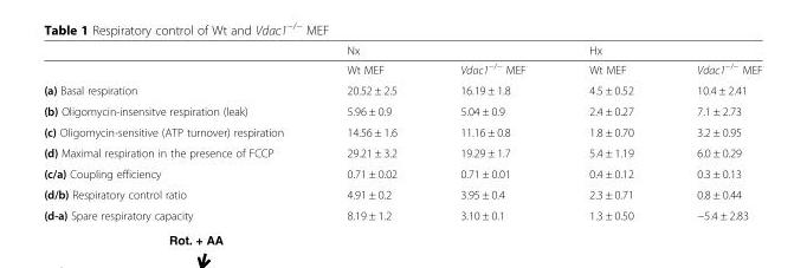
<table><thead><tr><td></td><td>Nx</td><td></td><td>Hx</td><td></td></tr></thead><tbody><tr><td></td><td>Wt MEF</td><td>Vdac1<sup>−/−</sup> MEF</td><td>Wt MEF</td><td>Vdac1<sup>−/−</sup> MEF</td></tr><tr><td>(a) Basal respiration</td><td>20.52 ± 2.5</td><td>16.19 ± 1.8</td><td>4.5 ± 0.52</td><td>10.4 ± 2.41</td></tr><tr><td>(b) Oligomycin-insensitve respiration (leak)</td><td>5.96 ± 0.9</td><td>5.04 ± 0.9</td><td>2.4 ± 0.27</td><td>7.1 ± 2.73</td></tr><tr><td>(c) Oligomycin-sensitive (ATP turnover) respiration</td><td>14.56 ± 1.6</td><td>11.16 ± 0.8</td><td>1.8 ± 0.70</td><td>3.2 ± 0.95</td></tr><tr><td>(d) Maximal respiration in the presence of FCCP</td><td>29.21 ± 3.2</td><td>19.29 ± 1.7</td><td>5.4 ± 1.19</td><td>6.0 ± 0.29</td></tr><tr><td>(c/a) Coupling efficiency</td><td>0.71 ± 0.02</td><td>0.71 ± 0.01</td><td>0.4 ± 0.12</td><td>0.3 ± 0.13</td></tr><tr><td>(d/b) Respiratory control ratio</td><td>4.91 ± 0.2</td><td>3.95 ± 0.4</td><td>2.3 ± 0.71</td><td>0.8 ± 0.44</td></tr><tr><td>(d-a) Spare respiratory capacity</td><td>8.19 ± 1.2</td><td>3.10 ± 0.1</td><td>1.3 ± 0.50</td><td>−5.4 ± 2.83</td></tr></tbody></table>